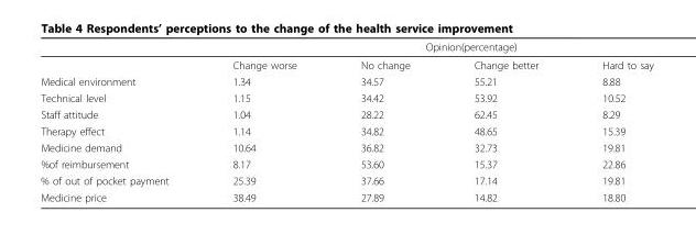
<table><thead><tr><td rowspan="2"></td><td colspan="4">Opinion(percentage)</td></tr><tr><td>Change worse</td><td>No change</td><td>Change better</td><td>Hard to say</td></tr></thead><tbody><tr><td>Medical environment</td><td>1.34</td><td>34.57</td><td>55.21</td><td>8.88</td></tr><tr><td>Technical level</td><td>1.15</td><td>34.42</td><td>53.92</td><td>10.52</td></tr><tr><td>Staff attitude</td><td>1.04</td><td>28.22</td><td>62.45</td><td>8.29</td></tr><tr><td>Therapy effect</td><td>1.14</td><td>34.82</td><td>48.65</td><td>15.39</td></tr><tr><td>Medicine demand</td><td>10.64</td><td>36.82</td><td>32.73</td><td>19.81</td></tr><tr><td>%of reimbursement</td><td>8.17</td><td>53.60</td><td>15.37</td><td>22.86</td></tr><tr><td>% of out of pocket payment</td><td>25.39</td><td>37.66</td><td>17.14</td><td>19.81</td></tr><tr><td>Medicine price</td><td>38.49</td><td>27.89</td><td>14.82</td><td>18.80</td></tr></tbody></table>